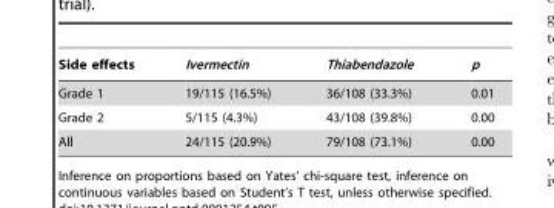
<table><thead><tr><td>Side effects</td><td>Ivermectin</td><td>Thiabendazole</td><td>p</td></tr></thead><tbody><tr><td>Grade 1</td><td>19/115 (16.5%)</td><td>36/108 (33.3%)</td><td>0.01</td></tr><tr><td>Grade 2</td><td>5/115 (4.3%)</td><td>43/108 (39.8%)</td><td>0.00</td></tr><tr><td>All</td><td>24/115 (20.9%)</td><td>79/108 (73.1%)</td><td>0.00</td></tr></tbody></table>